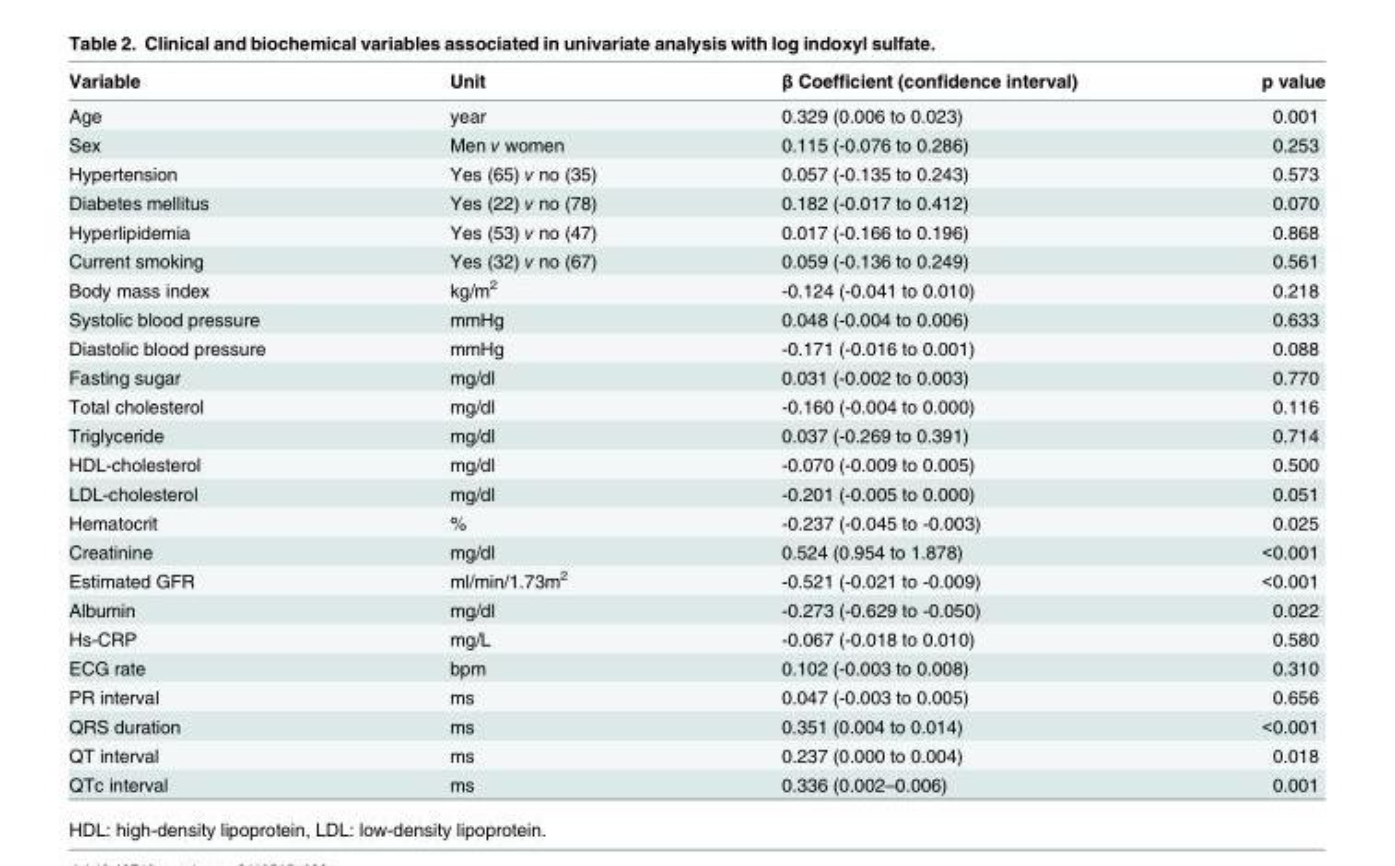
<table><thead><tr><td>Variable</td><td>Unit</td><td>β Coefficient (confidence interval)</td><td>p value</td></tr></thead><tbody><tr><td>Age</td><td>year</td><td>0.329 (0.006 to 0.023)</td><td>0.001</td></tr><tr><td>Sex</td><td>Men v women</td><td>0.115 (-0.076 to 0.286)</td><td>0.253</td></tr><tr><td>Hypertension</td><td>Yes (65) v no (35)</td><td>0.057 (-0.135 to 0.243)</td><td>0.573</td></tr><tr><td>Diabetes mellitus</td><td>Yes (22) v no (78)</td><td>0.182 (-0.017 to 0.412)</td><td>0.070</td></tr><tr><td>Hyperlipidemia</td><td>Yes (53) v no (47)</td><td>0.017 (-0.166 to 0.196)</td><td>0.868</td></tr><tr><td>Current smoking</td><td>Yes (32) v no (67)</td><td>0.059 (-0.136 to 0.249)</td><td>0.561</td></tr><tr><td>Body mass index</td><td>kg/m<sup>2</sup></td><td>-0.124 (-0.041 to 0.010)</td><td>0.218</td></tr><tr><td>Systolic blood pressure</td><td>mmHg</td><td>0.048 (-0.004 to 0.006)</td><td>0.633</td></tr><tr><td>Diastolic blood pressure</td><td>mmHg</td><td>-0.171 (-0.016 to 0.001)</td><td>0.088</td></tr><tr><td>Fasting sugar</td><td>mg/dl</td><td>0.031 (-0.002 to 0.003)</td><td>0.770</td></tr><tr><td>Total cholesterol</td><td>mg/dl</td><td>-0.160 (-0.004 to 0.000)</td><td>0.116</td></tr><tr><td>Triglyceride</td><td>mg/dl</td><td>0.037 (-0.269 to 0.391)</td><td>0.714</td></tr><tr><td>HDL-cholesterol</td><td>mg/dl</td><td>-0.070 (-0.009 to 0.005)</td><td>0.500</td></tr><tr><td>LDL-cholesterol</td><td>mg/dl</td><td>-0.201 (-0.005 to 0.000)</td><td>0.051</td></tr><tr><td>Hematocrit</td><td>%</td><td>-0.237 (-0.045 to -0.003)</td><td>0.025</td></tr><tr><td>Creatinine</td><td>mg/dl</td><td>0.524 (0.954 to 1.878)</td><td>&lt;0.001</td></tr><tr><td>Estimated GFR</td><td>ml/min/1.73m<sup>2</sup></td><td>-0.521 (-0.021 to -0.009)</td><td>&lt;0.001</td></tr><tr><td>Albumin</td><td>mg/dl</td><td>-0.273 (-0.629 to -0.050)</td><td>0.022</td></tr><tr><td>Hs-CRP</td><td>mg/L</td><td>-0.067 (-0.018 to 0.010)</td><td>0.580</td></tr><tr><td>ECG rate</td><td>bpm</td><td>0.102 (-0.003 to 0.008)</td><td>0.310</td></tr><tr><td>PR interval</td><td>ms</td><td>0.047 (-0.003 to 0.005)</td><td>0.656</td></tr><tr><td>QRS duration</td><td>ms</td><td>0.351 (0.004 to 0.014)</td><td>&lt;0.001</td></tr><tr><td>QT interval</td><td>ms</td><td>0.237 (0.000 to 0.004)</td><td>0.018</td></tr><tr><td>QTc interval</td><td>ms</td><td>0.336 (0.002–0.006)</td><td>0.001</td></tr></tbody></table>